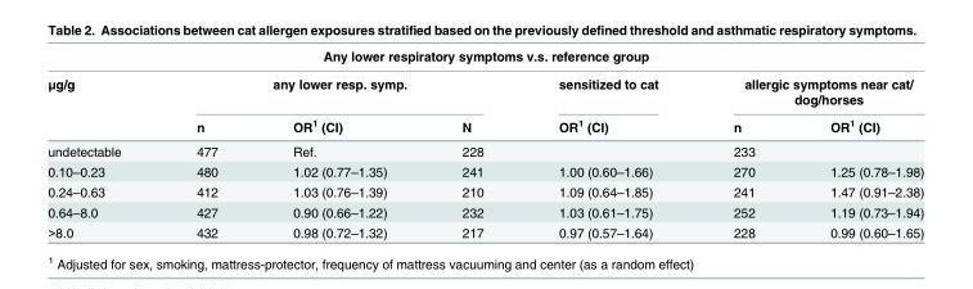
<table><thead><tr><td colspan="7">Any lower respiratory symptoms v.s. reference group</td></tr><tr><td rowspan="2">μg/g</td><td colspan="3">any lower resp. symp.</td><td rowspan="2">sensitized to cat OR<sup>1</sup> (CI)</td><td colspan="2">allergic symptoms near cat/ dog/horses</td></tr><tr><td>n</td><td>OR<sup>1</sup> (CI)</td><td>N</td><td>n</td><td>OR<sup>1</sup> (CI)</td></tr></thead><tbody><tr><td>undetectable</td><td>477</td><td>Ref.</td><td>228</td><td></td><td>233</td><td></td></tr><tr><td>0.10–0.23</td><td>480</td><td>1.02 (0.77–1.35)</td><td>241</td><td>1.00 (0.60–1.66)</td><td>270</td><td>1.25 (0.78–1.98)</td></tr><tr><td>0.24–0.63</td><td>412</td><td>1.03 (0.76–1.39)</td><td>210</td><td>1.09 (0.64–1.85)</td><td>241</td><td>1.47 (0.91–2.38)</td></tr><tr><td>0.64–8.0</td><td>427</td><td>0.90 (0.66–1.22)</td><td>232</td><td>1.03 (0.61–1.75)</td><td>252</td><td>1.19 (0.73–1.94)</td></tr><tr><td>&gt;8.0</td><td>432</td><td>0.98 (0.72–1.32)</td><td>217</td><td>0.97 (0.57–1.64)</td><td>228</td><td>0.99 (0.60–1.65)</td></tr></tbody></table>